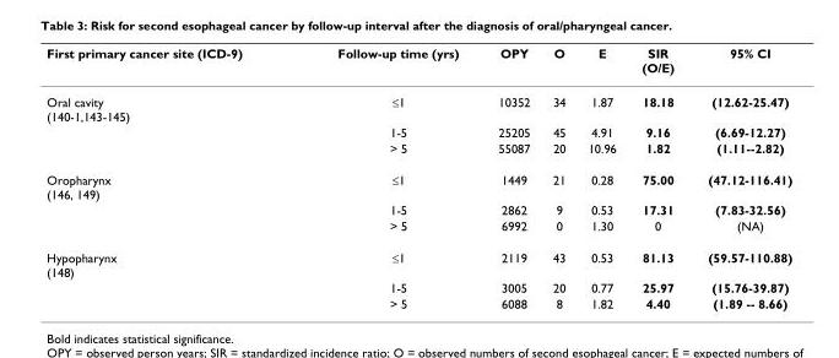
<table><thead><tr><td>First primary cancer site (ICD-9)</td><td>Follow-up time (yrs)</td><td>OPY</td><td>O</td><td>E</td><td>SIR (O/E)</td><td>95% CI</td></tr></thead><tbody><tr><td rowspan="3">Oral cavity (140-1,143-145)</td><td>≤1</td><td>10352</td><td>34</td><td>1.87</td><td>18.18</td><td>(12.62-25.47)</td></tr><tr><td>1-5</td><td>25205</td><td>45</td><td>4.91</td><td>9.16</td><td>(6.69-12.27)</td></tr><tr><td>&gt; 5</td><td>55087</td><td>20</td><td>10.96</td><td>1.82</td><td>(1.11--2.82)</td></tr><tr><td rowspan="3">Oropharynx (146, 149)</td><td>≤1</td><td>1449</td><td>21</td><td>0.28</td><td>75.00</td><td>(47.12-116.41)</td></tr><tr><td>1-5</td><td>2862</td><td>9</td><td>0.53</td><td>17.31</td><td>(7.83-32.56)</td></tr><tr><td>&gt; 5</td><td>6992</td><td>0</td><td>1.30</td><td>0</td><td>(NA)</td></tr><tr><td rowspan="3">Hypopharynx (148)</td><td>≤1</td><td>2119</td><td>43</td><td>0.53</td><td>81.13</td><td>(59.57-110.88)</td></tr><tr><td>1-5</td><td>3005</td><td>20</td><td>0.77</td><td>25.97</td><td>(15.76-39.87)</td></tr><tr><td>&gt; 5</td><td>6088</td><td>8</td><td>1.82</td><td>4.40</td><td>(1.89 -- 8.66)</td></tr></tbody></table>